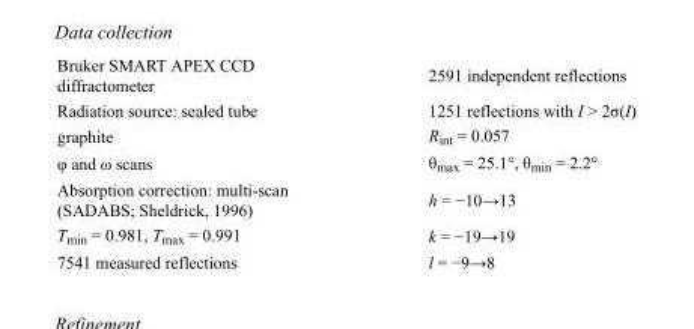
<table><tbody><tr><td>Bruker SMART APEX CCD diffractometer</td><td>2591 independent reflections</td></tr><tr><td>Radiation source: sealed tube</td><td>1251 reflections with I &gt; 2σ(I)</td></tr><tr><td>graphite</td><td>R<sub>int</sub> = 0.057</td></tr><tr><td>φ and ω scans</td><td>θ<sub>max</sub> = 25.1°, θ<sub>min</sub> = 2.2°</td></tr><tr><td>Absorption correction: multi-scan (SADABS; Sheldrick, 1996)</td><td>h = −10→13</td></tr><tr><td>T<sub>min</sub> = 0.981, T<sub>max</sub> = 0.991</td><td>k = −19→19</td></tr><tr><td>7541 measured reflections</td><td>l = −9→8</td></tr></tbody></table>